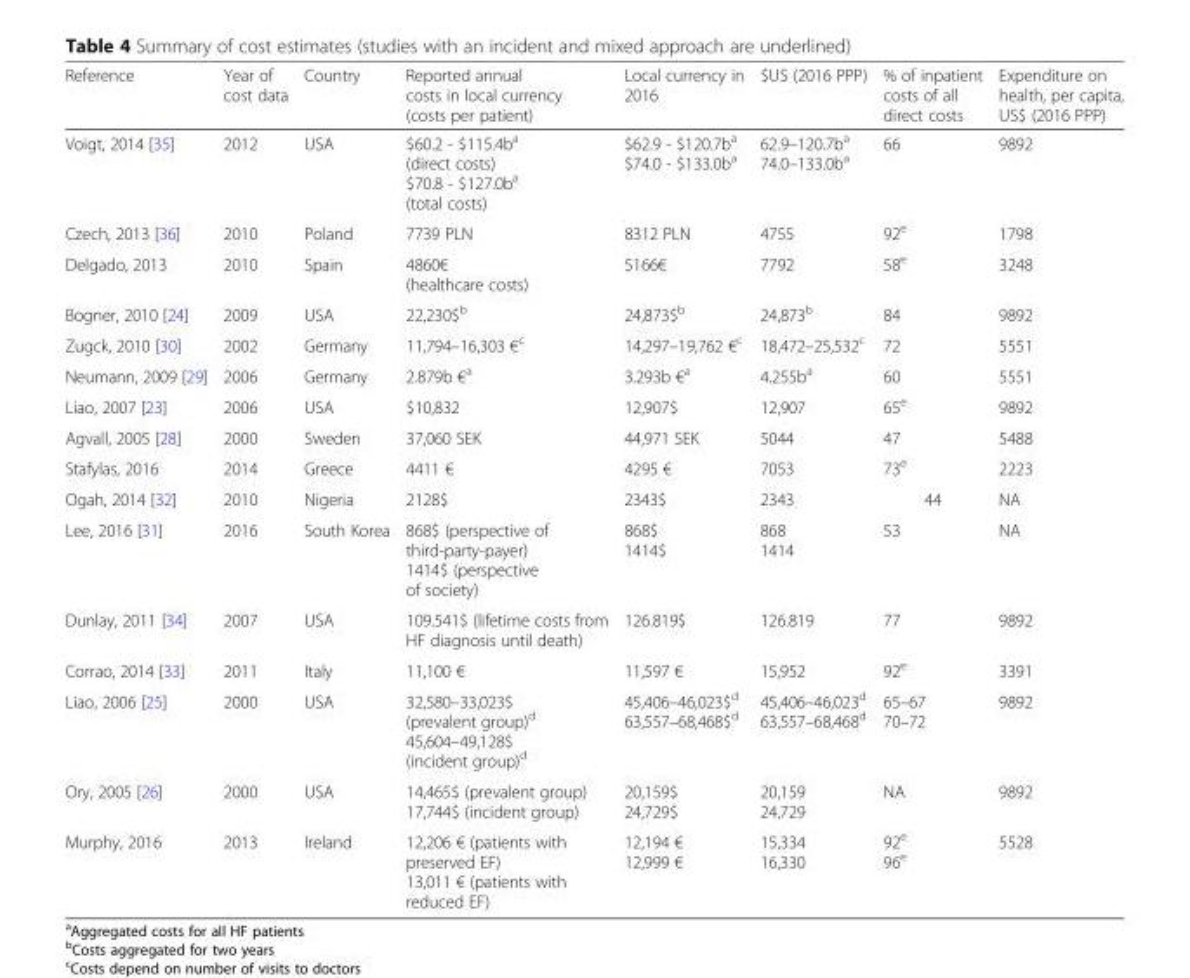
<table><thead><tr><td>Reference</td><td>Year of cost data</td><td>Country</td><td>Reported annual costs in local currency (costs per patient)</td><td>Local currency in 2016</td><td>$US (2016 PPP)</td><td>% of inpatient costs of all direct costs</td><td>Expenditure on health, per capita, US$ (2016 PPP)</td></tr></thead><tbody><tr><td>Voigt, 2014 [35]</td><td>2012</td><td>USA</td><td>$60.2 - $115.4b<sup>a</sup> (direct costs) $70.8 - $127.0b<sup>a</sup> (total costs)</td><td>$62.9 - $120.7b<sup>a</sup> $74.0 - $133.0b<sup>a</sup></td><td>62.9–120.7b<sup>a</sup> 74.0–133.0b<sup>a</sup></td><td>66</td><td>9892</td></tr><tr><td>Czech, 2013 [36]</td><td>2010</td><td>Poland</td><td>7739 PLN</td><td>8312 PLN</td><td>4755</td><td>92<sup>e</sup></td><td>1798</td></tr><tr><td>Delgado, 2013</td><td>2010</td><td>Spain</td><td>4860€ (healthcare costs)</td><td>5166€</td><td>7792</td><td>58<sup>e</sup></td><td>3248</td></tr><tr><td>Bogner, 2010 [24]</td><td>2009</td><td>USA</td><td>22,230$<sup>b</sup></td><td>24,873$<sup>b</sup></td><td>24,873<sup>b</sup></td><td>84</td><td>9892</td></tr><tr><td>Zugck, 2010 [30]</td><td>2002</td><td>Germany</td><td>11,794–16,303 €<sup>c</sup></td><td>14,297–19,762 €<sup>c</sup></td><td>18,472–25,532<sup>c</sup></td><td>72</td><td>5551</td></tr><tr><td>Neumann, 2009 [29]</td><td>2006</td><td>Germany</td><td>2.879b €<sup>a</sup></td><td>3.293b €<sup>a</sup></td><td>4.255b<sup>a</sup></td><td>60</td><td>5551</td></tr><tr><td>Liao, 2007 [23]</td><td>2006</td><td>USA</td><td>$10,832</td><td>12,907$</td><td>12,907</td><td>65<sup>e</sup></td><td>9892</td></tr><tr><td>Agvall, 2005 [28]</td><td>2000</td><td>Sweden</td><td>37,060 SEK</td><td>44,971 SEK</td><td>5044</td><td>47</td><td>5488</td></tr><tr><td>Stafylas, 2016</td><td>2014</td><td>Greece</td><td>4411 €</td><td>4295 €</td><td>7053</td><td>73<sup>e</sup></td><td>2223</td></tr><tr><td>Ogah, 2014 [32]</td><td>2010</td><td>Nigeria</td><td>2128$</td><td>2343$</td><td>2343</td><td>44</td><td>NA</td></tr><tr><td>Lee, 2016 [31]</td><td>2016</td><td>South Korea</td><td>868$ (perspective of third-party-payer) 1414$ (perspective of society)</td><td>868$ 1414$</td><td>868 1414</td><td>53</td><td>NA</td></tr><tr><td>Dunlay, 2011 [34]</td><td>2007</td><td>USA</td><td>109.541$ (lifetime costs from HF diagnosis until death)</td><td>126.819$</td><td>126.819</td><td>77</td><td>9892</td></tr><tr><td>Corrao, 2014 [33]</td><td>2011</td><td>Italy</td><td>11,100 €</td><td>11,597 €</td><td>15,952</td><td>92<sup>e</sup></td><td>3391</td></tr><tr><td>Liao, 2006 [25]</td><td>2000</td><td>USA</td><td>32,580–33,023$ (prevalent group)<sup>d</sup> 45,604–49,128$ (incident group)<sup>d</sup></td><td>45,406–46,023$<sup>d</sup> 63,557–68,468$<sup>d</sup></td><td>45,406–46,023<sup>d</sup> 63,557–68,468<sup>d</sup></td><td>65–67 70–72</td><td>9892</td></tr><tr><td>Ory, 2005 [26]</td><td>2000</td><td>USA</td><td>14,465$ (prevalent group) 17,744$ (incident group)</td><td>20,159$ 24,729$</td><td>20,159 24,729</td><td>NA</td><td>9892</td></tr><tr><td>Murphy, 2016</td><td>2013</td><td>Ireland</td><td>12,206 € (patients with preserved EF) 13,011 € (patients with reduced EF)</td><td>12,194 € 12,999 €</td><td>15,334 16,330</td><td>92<sup>e</sup> 96<sup>e</sup></td><td>5528</td></tr></tbody></table>